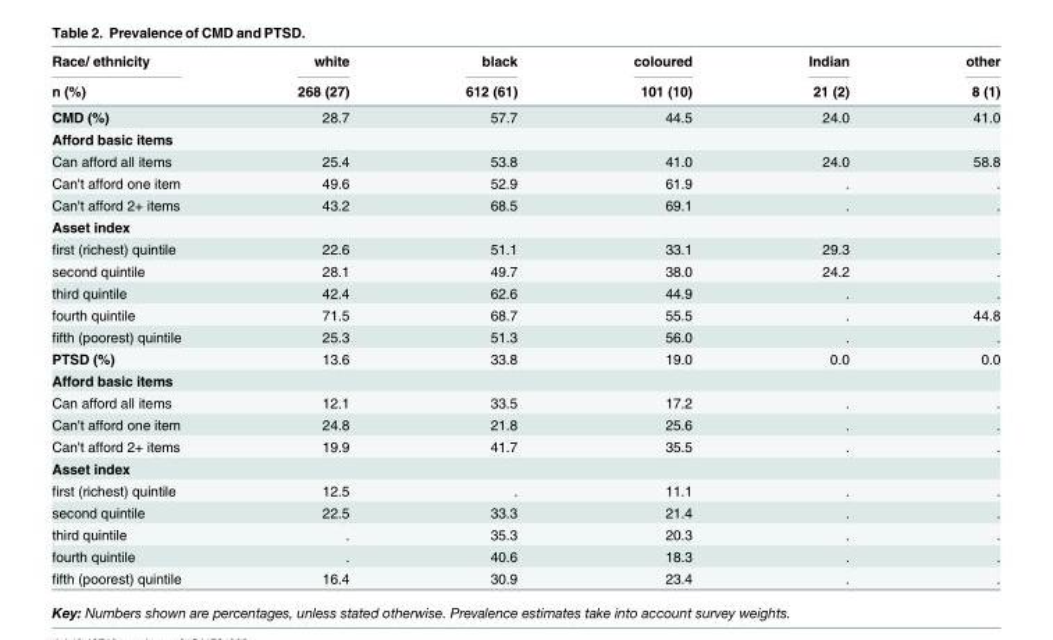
<table><thead><tr><td rowspan="2">Race/ ethnicity n (%)</td><td rowspan="2">white 268 (27)</td><td rowspan="2">black 612 (61)</td><td rowspan="2">coloured 101 (10)</td><td rowspan="2">Indian 21 (2)</td><td rowspan="2">other 8 (1)</td></tr><tr></tr></thead><tbody><tr><td>CMD (%)</td><td>28.7</td><td>57.7</td><td>44.5</td><td>24.0</td><td>41.0</td></tr><tr><td colspan="6">Afford basic items</td></tr><tr><td>Can afford all items</td><td>25.4</td><td>53.8</td><td>41.0</td><td>24.0</td><td>58.8</td></tr><tr><td>Can&#x27;t afford one item</td><td>49.6</td><td>52.9</td><td>61.9</td><td>.</td><td>.</td></tr><tr><td>Can&#x27;t afford 2+ items</td><td>43.2</td><td>68.5</td><td>69.1</td><td>.</td><td>.</td></tr><tr><td colspan="6">Asset index</td></tr><tr><td>first (richest) quintile</td><td>22.6</td><td>51.1</td><td>33.1</td><td>29.3</td><td>.</td></tr><tr><td>second quintile</td><td>28.1</td><td>49.7</td><td>38.0</td><td>24.2</td><td>.</td></tr><tr><td>third quintile</td><td>42.4</td><td>62.6</td><td>44.9</td><td>.</td><td>.</td></tr><tr><td>fourth quintile</td><td>71.5</td><td>68.7</td><td>55.5</td><td>.</td><td>44.8</td></tr><tr><td>fifth (poorest) quintile</td><td>25.3</td><td>51.3</td><td>56.0</td><td>.</td><td>.</td></tr><tr><td>PTSD (%)</td><td>13.6</td><td>33.8</td><td>19.0</td><td>0.0</td><td>0.0</td></tr><tr><td colspan="6">Afford basic items</td></tr><tr><td>Can afford all items</td><td>12.1</td><td>33.5</td><td>17.2</td><td>.</td><td>.</td></tr><tr><td>Can&#x27;t afford one item</td><td>24.8</td><td>21.8</td><td>25.6</td><td>.</td><td>.</td></tr><tr><td>Can&#x27;t afford 2+ items</td><td>19.9</td><td>41.7</td><td>35.5</td><td>.</td><td>.</td></tr><tr><td colspan="6">Asset index</td></tr><tr><td>first (richest) quintile</td><td>12.5</td><td>.</td><td>11.1</td><td>.</td><td>.</td></tr><tr><td>second quintile</td><td>22.5</td><td>33.3</td><td>21.4</td><td>.</td><td>.</td></tr><tr><td>third quintile</td><td>.</td><td>35.3</td><td>20.3</td><td>.</td><td>.</td></tr><tr><td>fourth quintile</td><td>.</td><td>40.6</td><td>18.3</td><td>.</td><td>.</td></tr><tr><td>fifth (poorest) quintile</td><td>16.4</td><td>30.9</td><td>23.4</td><td>.</td><td>.</td></tr></tbody></table>